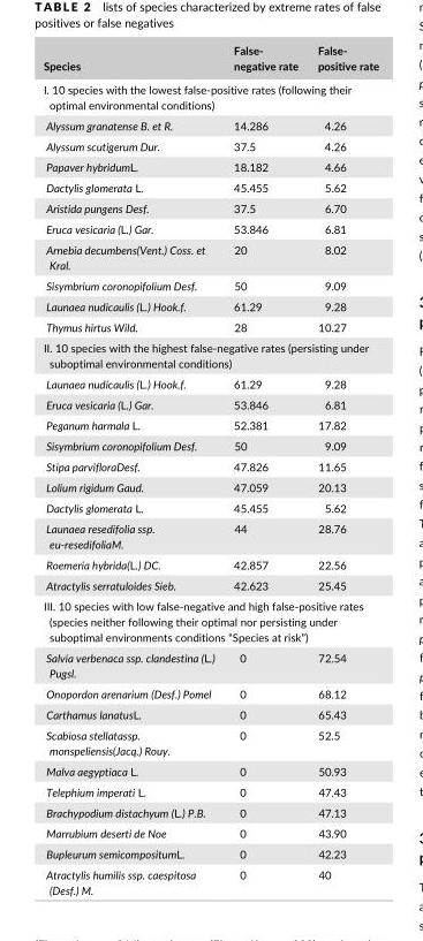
<table><thead><tr><td>Species</td><td>False- negative rate</td><td>False- positive rate</td></tr></thead><tbody><tr><td colspan="3">I. 10 species with the lowest false- positive rates (following their optimal environmental conditions)</td></tr><tr><td>Alyssum granatense B. et R.</td><td>14.286</td><td>4.26</td></tr><tr><td>Alyssum scutigerum Dur.</td><td>37.5</td><td>4.26</td></tr><tr><td>Papaver hybridumL.</td><td>18.182</td><td>4.66</td></tr><tr><td>Dactylis glomerata L.</td><td>45.455</td><td>5.62</td></tr><tr><td>Aristida pungens Desf.</td><td>37.5</td><td>6.70</td></tr><tr><td>Eruca vesicaria (L.) Gar.</td><td>53.846</td><td>6.81</td></tr><tr><td>Arnebia decumbens(Vent.) Coss. et Kral.</td><td>20</td><td>8.02</td></tr><tr><td>Sisymbrium coronopifolium Desf.</td><td>50</td><td>9.09</td></tr><tr><td>Launaea nudicaulis (L.) Hook.f.</td><td>61.29</td><td>9.28</td></tr><tr><td>Thymus hirtus Wild.</td><td>28</td><td>10.27</td></tr><tr><td colspan="3">II. 10 species with the highest false- negative rates (persisting under suboptimal environmental conditions)</td></tr><tr><td>Launaea nudicaulis (L.) Hook.f.</td><td>61.29</td><td>9.28</td></tr><tr><td>Eruca vesicaria (L.) Gar.</td><td>53.846</td><td>6.81</td></tr><tr><td>Peganum harmala L.</td><td>52.381</td><td>17.82</td></tr><tr><td>Sisymbrium coronopifolium Desf.</td><td>50</td><td>9.09</td></tr><tr><td>Stipa parvifloraDesf.</td><td>47.826</td><td>11.65</td></tr><tr><td>Lolium rigidum Gaud.</td><td>47.059</td><td>20.13</td></tr><tr><td>Dactylis glomerata L.</td><td>45.455</td><td>5.62</td></tr><tr><td>Launaea resedifolia ssp. eu-resedifoliaM.</td><td>44</td><td>28.76</td></tr><tr><td>Roemeria hybrida(L.) DC.</td><td>42.857</td><td>22.56</td></tr><tr><td>Atractylis serratuloides Sieb.</td><td>42.623</td><td>25.45</td></tr><tr><td colspan="3">III. 10 species with low false- negative and high false- positive rates (species neither following their optimal nor persisting under suboptimal environments conditions “Species at risk”)</td></tr><tr><td>Salvia verbenaca ssp. clandestina (L.) Pugsl.</td><td>0</td><td>72.54</td></tr><tr><td>Onopordon arenarium (Desf.) Pomel</td><td>0</td><td>68.12</td></tr><tr><td>Carthamus lanatusL.</td><td>0</td><td>65.43</td></tr><tr><td>Scabiosa stellatassp. monspeliensis(Jacq.) Rouy.</td><td>0</td><td>52.5</td></tr><tr><td>Malva aegyptiaca L.</td><td>0</td><td>50.93</td></tr><tr><td>Telephium imperati L.</td><td>0</td><td>47.43</td></tr><tr><td>Brachypodium distachyum (L.) P.B.</td><td>0</td><td>47.13</td></tr><tr><td>Marrubium deserti de Noe</td><td>0</td><td>43.90</td></tr><tr><td>Bupleurum semicompositumL.</td><td>0</td><td>42.23</td></tr><tr><td>Atractylis humilis ssp. caespitosa (Desf.) M.</td><td>0</td><td>40</td></tr></tbody></table>